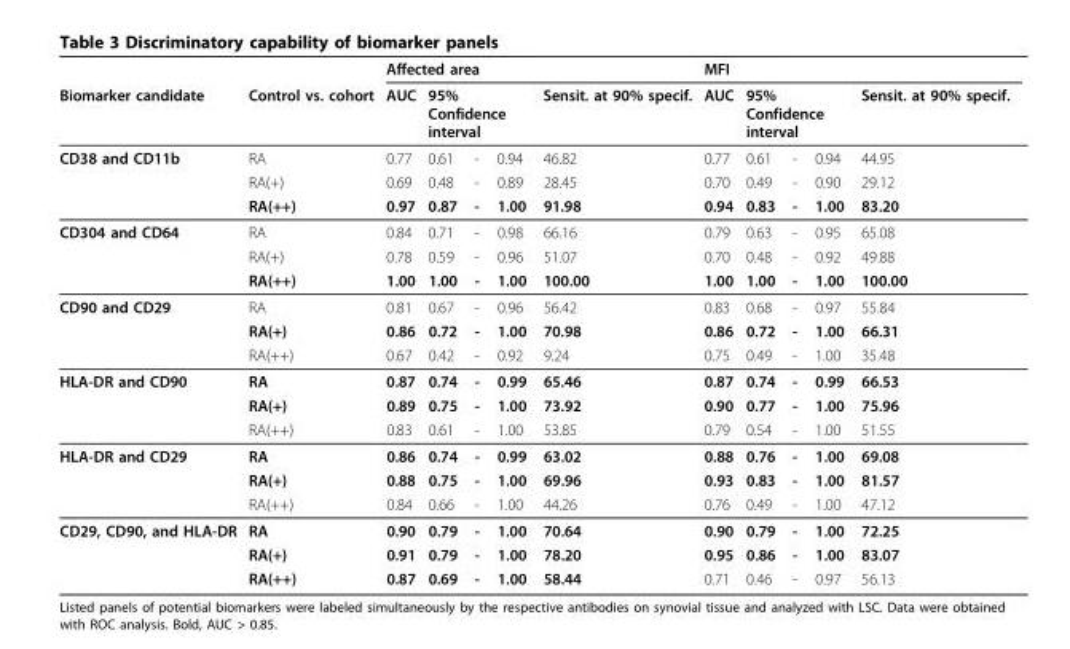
<table><thead><tr><td rowspan="3">Biomarker candidate CD38 and CD11b</td><td rowspan="3">Control vs. cohort RA</td><td colspan="5">Affected area</td><td colspan="5">MFI</td></tr><tr><td rowspan="2">AUC 0.77</td><td colspan="3">95% Confidence interval</td><td rowspan="2">Sensit. at 90% specif. 46.82</td><td rowspan="2">AUC 0.77</td><td colspan="3">95% Confidence interval</td><td rowspan="2">Sensit. at 90% specif. 44.95</td></tr><tr><td>0.61</td><td>-</td><td>0.94</td><td>0.61</td><td>-</td><td>0.94</td></tr></thead><tbody><tr><td></td><td>RA(+)</td><td>0.69</td><td>0.48</td><td>-</td><td>0.89</td><td>28.45</td><td>0.70</td><td>0.49</td><td>-</td><td>0.90</td><td>29.12</td></tr><tr><td></td><td>RA(++)</td><td>0.97</td><td>0.87</td><td>-</td><td>1.00</td><td>91.98</td><td>0.94</td><td>0.83</td><td>-</td><td>1.00</td><td>83.20</td></tr><tr><td rowspan="3">CD304 and CD64</td><td>RA</td><td>0.84</td><td>0.71</td><td>-</td><td>0.98</td><td>66.16</td><td>0.79</td><td>0.63</td><td>-</td><td>0.95</td><td>65.08</td></tr><tr><td>RA(+)</td><td>0.78</td><td>0.59</td><td>-</td><td>0.96</td><td>51.07</td><td>0.70</td><td>0.48</td><td>-</td><td>0.92</td><td>49.88</td></tr><tr><td>RA(++)</td><td>1.00</td><td>1.00</td><td>-</td><td>1.00</td><td>100.00</td><td>1.00</td><td>1.00</td><td>-</td><td>1.00</td><td>100.00</td></tr><tr><td rowspan="3">CD90 and CD29</td><td>RA</td><td>0.81</td><td>0.67</td><td>-</td><td>0.96</td><td>56.42</td><td>0.83</td><td>0.68</td><td>-</td><td>0.97</td><td>55.84</td></tr><tr><td>RA(+)</td><td>0.86</td><td>0.72</td><td>-</td><td>1.00</td><td>70.98</td><td>0.86</td><td>0.72</td><td>-</td><td>1.00</td><td>66.31</td></tr><tr><td>RA(++)</td><td>0.67</td><td>0.42</td><td>-</td><td>0.92</td><td>9.24</td><td>0.75</td><td>0.49</td><td>-</td><td>1.00</td><td>35.48</td></tr><tr><td rowspan="3">HLA-DR and CD90</td><td>RA</td><td>0.87</td><td>0.74</td><td>-</td><td>0.99</td><td>65.46</td><td>0.87</td><td>0.74</td><td>-</td><td>0.99</td><td>66.53</td></tr><tr><td>RA(+)</td><td>0.89</td><td>0.75</td><td>-</td><td>1.00</td><td>73.92</td><td>0.90</td><td>0.77</td><td>-</td><td>1.00</td><td>75.96</td></tr><tr><td>RA(++)</td><td>0.83</td><td>0.61</td><td>-</td><td>1.00</td><td>53.85</td><td>0.79</td><td>0.54</td><td>-</td><td>1.00</td><td>51.55</td></tr><tr><td rowspan="3">HLA-DR and CD29</td><td>RA</td><td>0.86</td><td>0.74</td><td>-</td><td>0.99</td><td>63.02</td><td>0.88</td><td>0.76</td><td>-</td><td>1.00</td><td>69.08</td></tr><tr><td>RA(+)</td><td>0.88</td><td>0.75</td><td>-</td><td>1.00</td><td>69.96</td><td>0.93</td><td>0.83</td><td>-</td><td>1.00</td><td>81.57</td></tr><tr><td>RA(++)</td><td>0.84</td><td>0.66</td><td>-</td><td>1.00</td><td>44.26</td><td>0.76</td><td>0.49</td><td>-</td><td>1.00</td><td>47.12</td></tr><tr><td rowspan="3">CD29, CD90, and HLA-DR</td><td>RA</td><td>0.90</td><td>0.79</td><td>-</td><td>1.00</td><td>70.64</td><td>0.90</td><td>0.79</td><td>-</td><td>1.00</td><td>72.25</td></tr><tr><td>RA(+)</td><td>0.91</td><td>0.79</td><td>-</td><td>1.00</td><td>78.20</td><td>0.95</td><td>0.86</td><td>-</td><td>1.00</td><td>83.07</td></tr><tr><td>RA(++)</td><td>0.87</td><td>0.69</td><td>-</td><td>1.00</td><td>58.44</td><td>0.71</td><td>0.46</td><td>-</td><td>0.97</td><td>56.13</td></tr></tbody></table>